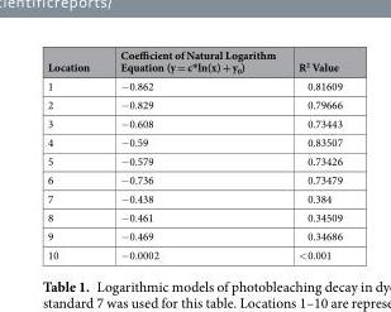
<table><thead><tr><td>Location</td><td>Coefficient of Natural Logarithm Equation (y = c*ln(x) + y<sub>0</sub>)</td><td>R<sup>2</sup> Value</td></tr></thead><tbody><tr><td>1</td><td>−0.862</td><td>0.81609</td></tr><tr><td>2</td><td>−0.829</td><td>0.79666</td></tr><tr><td>3</td><td>−0.608</td><td>0.73443</td></tr><tr><td>4</td><td>−0.59</td><td>0.83507</td></tr><tr><td>5</td><td>−0.579</td><td>0.73426</td></tr><tr><td>6</td><td>−0.736</td><td>0.73479</td></tr><tr><td>7</td><td>−0.438</td><td>0.384</td></tr><tr><td>8</td><td>−0.461</td><td>0.34509</td></tr><tr><td>9</td><td>−0.469</td><td>0.34686</td></tr><tr><td>10</td><td>−0.0002</td><td>&lt;0.001</td></tr></tbody></table>